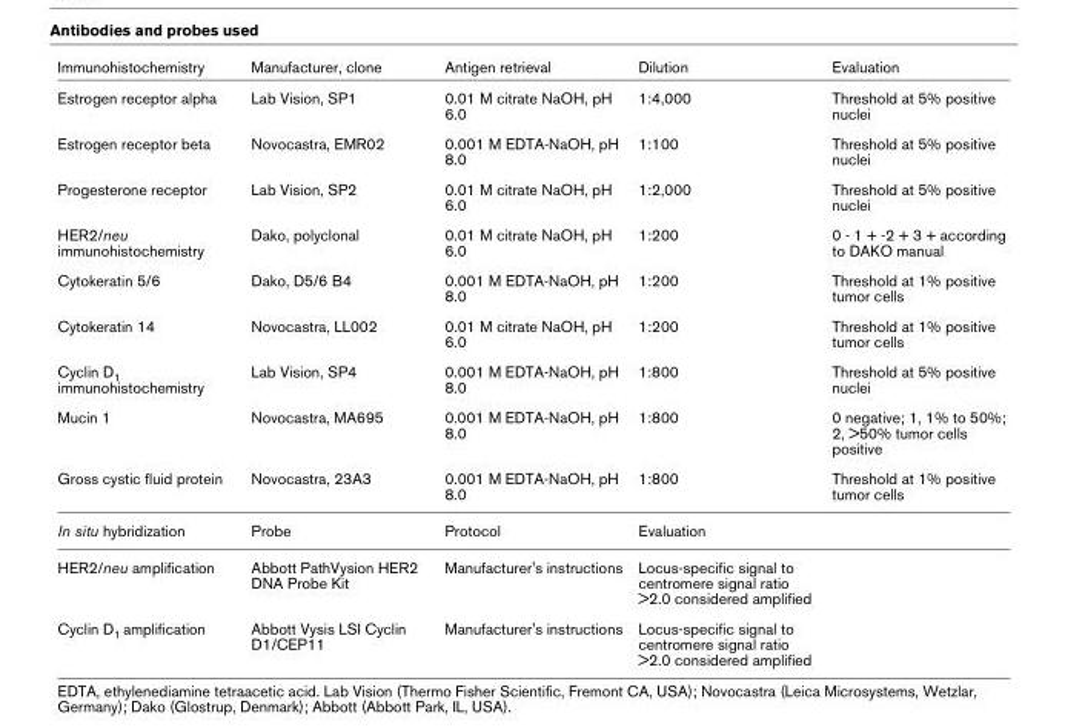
<table><thead><tr><td>Immunohistochemistry</td><td>Manufacturer, clone</td><td>Antigen retrieval</td><td>Dilution</td><td>Evaluation</td></tr></thead><tbody><tr><td>Estrogen receptor alpha</td><td>Lab Vision, SP1</td><td>0.01 M citrate NaOH, pH 6.0</td><td>1:4,000</td><td>Threshold at 5% positive nuclei</td></tr><tr><td>Estrogen receptor beta</td><td>Novocastra, EMR02</td><td>0.001 M EDTA-NaOH, pH 8.0</td><td>1:100</td><td>Threshold at 5% positive nuclei</td></tr><tr><td>Progesterone receptor</td><td>Lab Vision, SP2</td><td>0.01 M citrate NaOH, pH 6.0</td><td>1:2,000</td><td>Threshold at 5% positive nuclei</td></tr><tr><td>HER2/neu immunohistochemistry</td><td>Dako, polyclonal</td><td>0.01 M citrate NaOH, pH 6.0</td><td>1:200</td><td>0 - 1 + -2 + 3 + according to DAKO manual</td></tr><tr><td>Cytokeratin 5/6</td><td>Dako, D5/6 B4</td><td>0.001 M EDTA-NaOH, pH 8.0</td><td>1:200</td><td>Threshold at 1% positive tumor cells</td></tr><tr><td>Cytokeratin 14</td><td>Novocastra, LL002</td><td>0.01 M citrate NaOH, pH 6.0</td><td>1:200</td><td>Threshold at 1% positive tumor cells</td></tr><tr><td>Cyclin D<sub>1</sub> immunohistochemistry</td><td>Lab Vision, SP4</td><td>0.001 M EDTA-NaOH, pH 8.0</td><td>1:800</td><td>Threshold at 5% positive nuclei</td></tr><tr><td>Mucin 1</td><td>Novocastra, MA695</td><td>0.001 M EDTA-NaOH, pH 8.0</td><td>1:800</td><td>0 negative; 1, 1% to 50%; 2, &gt;50% tumor cells positive</td></tr><tr><td>Gross cystic fluid protein</td><td>Novocastra, 23A3</td><td>0.001 M EDTA-NaOH, pH 8.0</td><td>1:800</td><td>Threshold at 1% positive tumor cells</td></tr><tr><td>In situ hybridization</td><td>Probe</td><td>Protocol</td><td>Evaluation</td><td></td></tr><tr><td>HER2/neu amplification</td><td>Abbott PathVysion HER2 DNA Probe Kit</td><td>Manufacturer&#x27;s instructions</td><td>Locus-specific signal to centromere signal ratio &gt;2.0 considered amplified</td><td></td></tr><tr><td>Cyclin D<sub>1</sub> amplification</td><td>Abbott Vysis LSI Cyclin D1/CEP11</td><td>Manufacturer&#x27;s instructions</td><td>Locus-specific signal to centromere signal ratio &gt;2.0 considered amplified</td><td></td></tr></tbody></table>